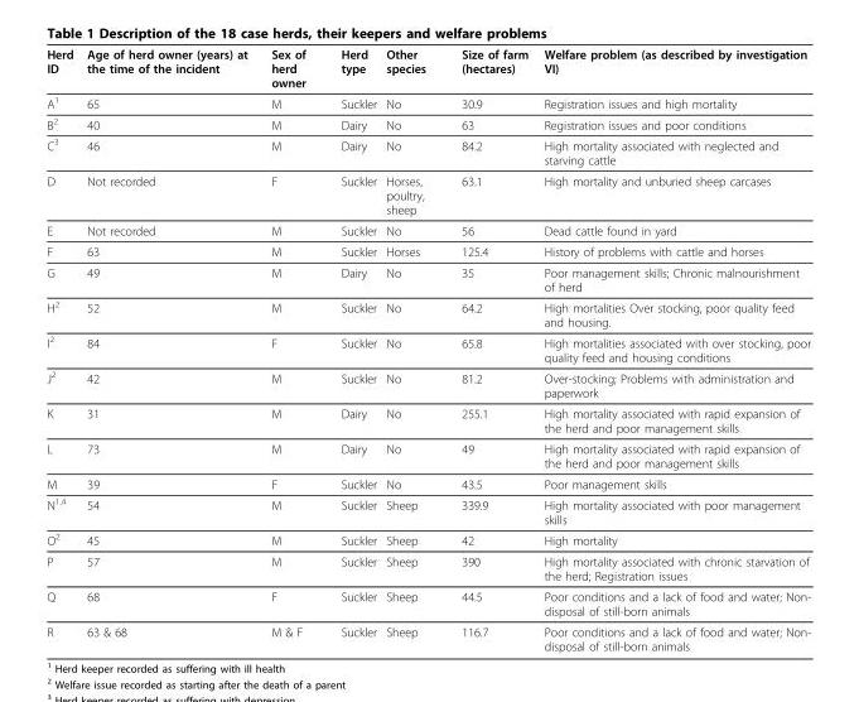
<table><thead><tr><td>Herd ID</td><td>Age of herd owner (years) at the time of the incident</td><td>Sex of herd owner</td><td>Herd type</td><td>Other species</td><td>Size of farm (hectares)</td><td>Welfare problem (as described by investigation VI)</td></tr></thead><tbody><tr><td>A<sup>1</sup></td><td>65</td><td>M</td><td>Suckler</td><td>No</td><td>30.9</td><td>Registration issues and high mortality</td></tr><tr><td>B<sup>2</sup></td><td>40</td><td>M</td><td>Dairy</td><td>No</td><td>63</td><td>Registration issues and poor conditions</td></tr><tr><td>C<sup>3</sup></td><td>46</td><td>M</td><td>Dairy</td><td>No</td><td>84.2</td><td>High mortality associated with neglected and starving cattle</td></tr><tr><td>D</td><td>Not recorded</td><td>F</td><td>Suckler</td><td>Horses, poultry, sheep</td><td>63.1</td><td>High mortality and unburied sheep carcases</td></tr><tr><td>E</td><td>Not recorded</td><td>M</td><td>Suckler</td><td>No</td><td>56</td><td>Dead cattle found in yard</td></tr><tr><td>F</td><td>63</td><td>M</td><td>Suckler</td><td>Horses</td><td>125.4</td><td>History of problems with cattle and horses</td></tr><tr><td>G</td><td>49</td><td>M</td><td>Dairy</td><td>No</td><td>35</td><td>Poor management skills; Chronic malnourishment of herd</td></tr><tr><td>H<sup>2</sup></td><td>52</td><td>M</td><td>Suckler</td><td>No</td><td>64.2</td><td>High mortalities Over stocking, poor quality feed and housing.</td></tr><tr><td>I<sup>2</sup></td><td>84</td><td>F</td><td>Suckler</td><td>No</td><td>65.8</td><td>High mortalities associated with over stocking, poor quality feed and housing conditions</td></tr><tr><td>J<sup>2</sup></td><td>42</td><td>M</td><td>Suckler</td><td>No</td><td>81.2</td><td>Over-stocking; Problems with administration and paperwork</td></tr><tr><td>K</td><td>31</td><td>M</td><td>Dairy</td><td>No</td><td>255.1</td><td>High mortality associated with rapid expansion of the herd and poor management skills</td></tr><tr><td>L</td><td>73</td><td>M</td><td>Dairy</td><td>No</td><td>49</td><td>High mortality associated with rapid expansion of the herd and poor management skills</td></tr><tr><td>M</td><td>39</td><td>F</td><td>Suckler</td><td>No</td><td>43.5</td><td>Poor management skills</td></tr><tr><td>N<sup>1,4</sup></td><td>54</td><td>M</td><td>Suckler</td><td>Sheep</td><td>339.9</td><td>High mortality associated with poor management skills</td></tr><tr><td>O<sup>2</sup></td><td>45</td><td>M</td><td>Suckler</td><td>Sheep</td><td>42</td><td>High mortality</td></tr><tr><td>P</td><td>57</td><td>M</td><td>Suckler</td><td>Sheep</td><td>390</td><td>High mortality associated with chronic starvation of the herd; Registration issues</td></tr><tr><td>Q</td><td>68</td><td>F</td><td>Suckler</td><td>Sheep</td><td>44.5</td><td>Poor conditions and a lack of food and water; Non- disposal of still-born animals</td></tr><tr><td>R</td><td>63 &amp; 68</td><td>M &amp; F</td><td>Suckler</td><td>Sheep</td><td>116.7</td><td>Poor conditions and a lack of food and water; Non- disposal of still-born animals</td></tr></tbody></table>